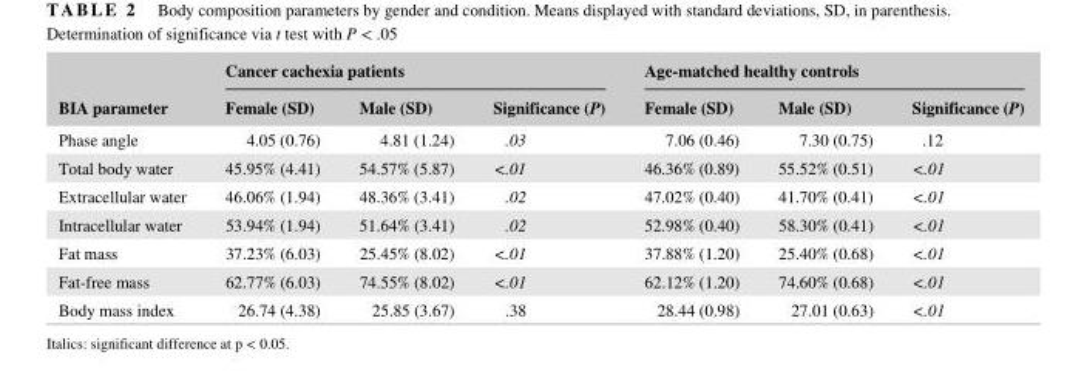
<table><thead><tr><td rowspan="2">BIA parameter</td><td colspan="3">Cancer cachexia patients</td><td colspan="3">Age- matched healthy controls</td></tr><tr><td>Female (SD)</td><td>Male (SD)</td><td>Significance (P)</td><td>Female (SD)</td><td>Male (SD)</td><td>Significance (P)</td></tr></thead><tbody><tr><td>Phase angle</td><td>4.05 (0.76)</td><td>4.81 (1.24)</td><td>.03</td><td>7.06 (0.46)</td><td>7.30 (0.75)</td><td>.12</td></tr><tr><td>Total body water</td><td>45.95% (4.41)</td><td>54.57% (5.87)</td><td>&lt;.01</td><td>46.36% (0.89)</td><td>55.52% (0.51)</td><td>&lt;.01</td></tr><tr><td>Extracellular water</td><td>46.06% (1.94)</td><td>48.36% (3.41)</td><td>.02</td><td>47.02% (0.40)</td><td>41.70% (0.41)</td><td>&lt;.01</td></tr><tr><td>Intracellular water</td><td>53.94% (1.94)</td><td>51.64% (3.41)</td><td>.02</td><td>52.98% (0.40)</td><td>58.30% (0.41)</td><td>&lt;.01</td></tr><tr><td>Fat mass</td><td>37.23% (6.03)</td><td>25.45% (8.02)</td><td>&lt;.01</td><td>37.88% (1.20)</td><td>25.40% (0.68)</td><td>&lt;.01</td></tr><tr><td>Fat- free mass</td><td>62.77% (6.03)</td><td>74.55% (8.02)</td><td>&lt;.01</td><td>62.12% (1.20)</td><td>74.60% (0.68)</td><td>&lt;.01</td></tr><tr><td>Body mass index</td><td>26.74 (4.38)</td><td>25.85 (3.67)</td><td>.38</td><td>28.44 (0.98)</td><td>27.01 (0.63)</td><td>&lt;.01</td></tr></tbody></table>